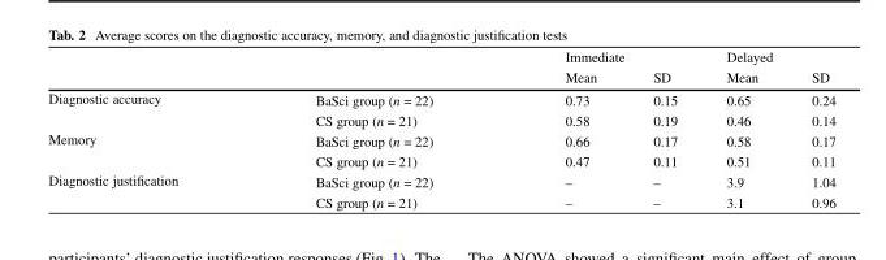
<table><thead><tr><td rowspan="2"></td><td rowspan="2"></td><td colspan="2">Immediate</td><td colspan="2">Delayed</td></tr><tr><td>Mean</td><td>SD</td><td>Mean</td><td>SD</td></tr></thead><tbody><tr><td rowspan="2">Diagnostic accuracy</td><td>BaSci group (n = 22)</td><td>0.73</td><td>0.15</td><td>0.65</td><td>0.24</td></tr><tr><td>CS group (n = 21)</td><td>0.58</td><td>0.19</td><td>0.46</td><td>0.14</td></tr><tr><td rowspan="2">Memory</td><td>BaSci group (n = 22)</td><td>0.66</td><td>0.17</td><td>0.58</td><td>0.17</td></tr><tr><td>CS group (n = 21)</td><td>0.47</td><td>0.11</td><td>0.51</td><td>0.11</td></tr><tr><td rowspan="2">Diagnostic justification</td><td>BaSci group (n = 22)</td><td>–</td><td>–</td><td>3.9</td><td>1.04</td></tr><tr><td>CS group (n = 21)</td><td>–</td><td>–</td><td>3.1</td><td>0.96</td></tr></tbody></table>